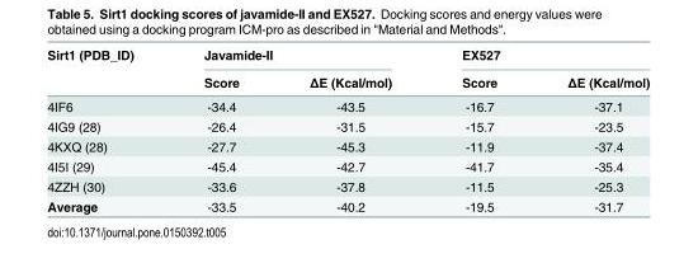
<table><thead><tr><td rowspan="2">Sirt1 (PDB_ID)</td><td colspan="2">Javamide-II</td><td colspan="2">EX527</td></tr><tr><td>Score</td><td>ΔE (Kcal/mol)</td><td>Score</td><td>ΔE (Kcal/mol)</td></tr></thead><tbody><tr><td>4IF6</td><td>-34.4</td><td>-43.5</td><td>-16.7</td><td>-37.1</td></tr><tr><td>4IG9 (28)</td><td>-26.4</td><td>-31.5</td><td>-15.7</td><td>-23.5</td></tr><tr><td>4KXQ (28)</td><td>-27.7</td><td>-45.3</td><td>-11.9</td><td>-37.4</td></tr><tr><td>4I5I (29)</td><td>-45.4</td><td>-42.7</td><td>-41.7</td><td>-35.4</td></tr><tr><td>4ZZH (30)</td><td>-33.6</td><td>-37.8</td><td>-11.5</td><td>-25.3</td></tr><tr><td>Average</td><td>-33.5</td><td>-40.2</td><td>-19.5</td><td>-31.7</td></tr></tbody></table>